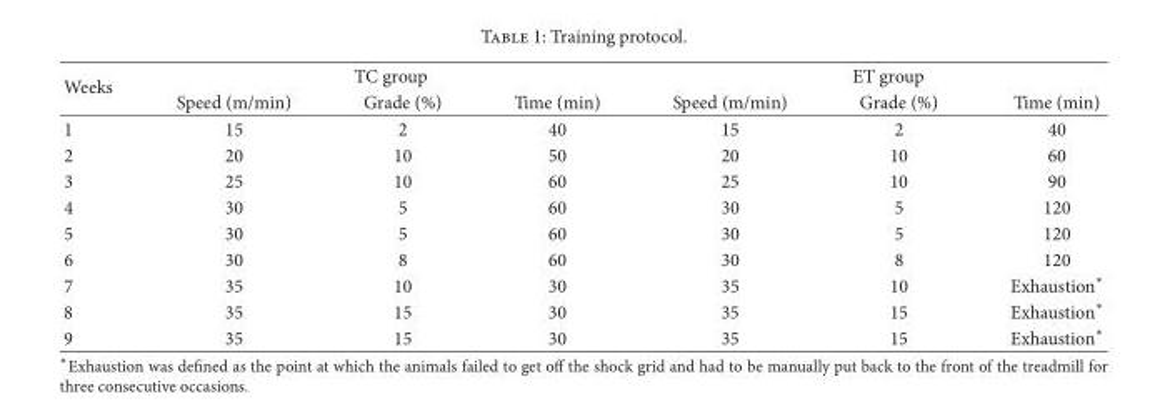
<table><thead><tr><td rowspan="2">Weeks</td><td colspan="3">TC group</td><td colspan="3">ET group</td></tr><tr><td>Speed (m/min)</td><td>Grade (%)</td><td>Time (min)</td><td>Speed (m/min)</td><td>Grade (%)</td><td>Time (min)</td></tr></thead><tbody><tr><td>1</td><td>15</td><td>2</td><td>40</td><td>15</td><td>2</td><td>40</td></tr><tr><td>2</td><td>20</td><td>10</td><td>50</td><td>20</td><td>10</td><td>60</td></tr><tr><td>3</td><td>25</td><td>10</td><td>60</td><td>25</td><td>10</td><td>90</td></tr><tr><td>4</td><td>30</td><td>5</td><td>60</td><td>30</td><td>5</td><td>120</td></tr><tr><td>5</td><td>30</td><td>5</td><td>60</td><td>30</td><td>5</td><td>120</td></tr><tr><td>6</td><td>30</td><td>8</td><td>60</td><td>30</td><td>8</td><td>120</td></tr><tr><td>7</td><td>35</td><td>10</td><td>30</td><td>35</td><td>10</td><td>Exhaustion∗</td></tr><tr><td>8</td><td>35</td><td>15</td><td>30</td><td>35</td><td>15</td><td>Exhaustion∗</td></tr><tr><td>9</td><td>35</td><td>15</td><td>30</td><td>35</td><td>15</td><td>Exhaustion∗</td></tr></tbody></table>